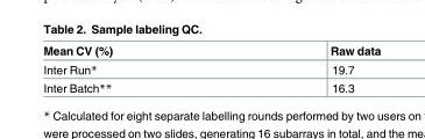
<table><thead><tr><td>Mean CV (%)</td><td>Raw data</td></tr></thead><tbody><tr><td>Inter Run*</td><td>19.7</td></tr><tr><td>Inter Batch**</td><td>16.3</td></tr></tbody></table>